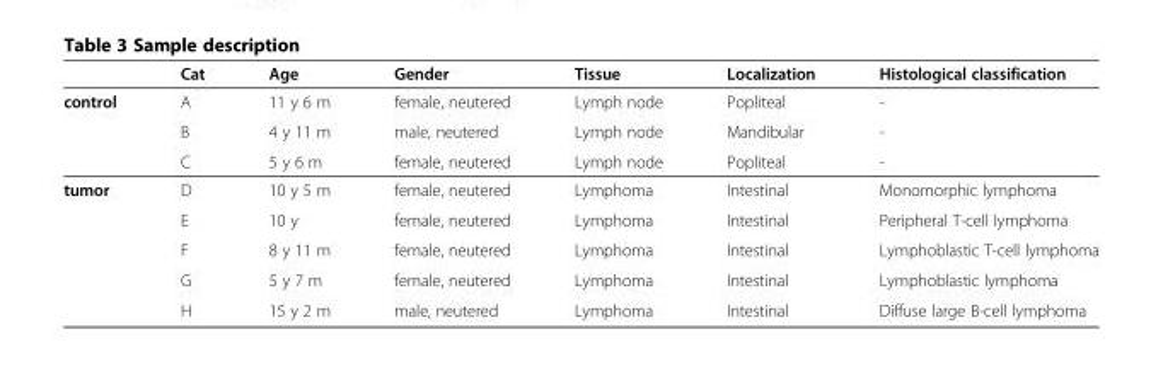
<table><thead><tr><td></td><td>Cat</td><td>Age</td><td>Gender</td><td>Tissue</td><td>Localization</td><td>Histological classification</td></tr></thead><tbody><tr><td rowspan="3">control</td><td>A</td><td>11 y 6 m</td><td>female, neutered</td><td>Lymph node</td><td>Popliteal</td><td>-</td></tr><tr><td>B</td><td>4 y 11 m</td><td>male, neutered</td><td>Lymph node</td><td>Mandibular</td><td>-</td></tr><tr><td>C</td><td>5 y 6 m</td><td>female, neutered</td><td>Lymph node</td><td>Popliteal</td><td>-</td></tr><tr><td rowspan="5">tumor</td><td>D</td><td>10 y 5 m</td><td>female, neutered</td><td>Lymphoma</td><td>Intestinal</td><td>Monomorphic lymphoma</td></tr><tr><td>E</td><td>10 y</td><td>female, neutered</td><td>Lymphoma</td><td>Intestinal</td><td>Peripheral T-cell lymphoma</td></tr><tr><td>F</td><td>8 y 11 m</td><td>female, neutered</td><td>Lymphoma</td><td>Intestinal</td><td>Lymphoblastic T-cell lymphoma</td></tr><tr><td>G</td><td>5 y 7 m</td><td>female, neutered</td><td>Lymphoma</td><td>Intestinal</td><td>Lymphoblastic lymphoma</td></tr><tr><td>H</td><td>15 y 2 m</td><td>male, neutered</td><td>Lymphoma</td><td>Intestinal</td><td>Diffuse large B-cell lymphoma</td></tr></tbody></table>